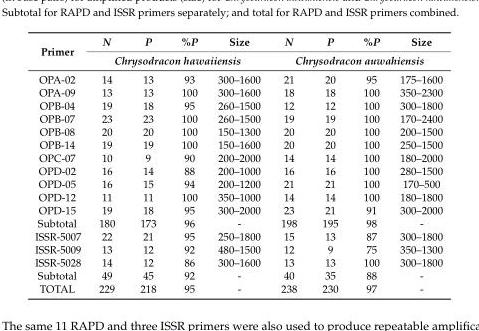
<table><thead><tr><td rowspan="2">Primer</td><td>N</td><td>P</td><td>%P</td><td>Size</td><td>N</td><td>P</td><td>%P</td><td>Size</td></tr><tr><td colspan="4">Chrysodracon hawaiiensis</td><td colspan="4">Chrysodracon auwahiensis</td></tr></thead><tbody><tr><td>OPA-02</td><td>14</td><td>13</td><td>93</td><td>300–1600</td><td>21</td><td>20</td><td>95</td><td>175–1600</td></tr><tr><td>OPA-09</td><td>13</td><td>13</td><td>100</td><td>300–1600</td><td>18</td><td>18</td><td>100</td><td>350–2300</td></tr><tr><td>OPB-04</td><td>19</td><td>18</td><td>95</td><td>260–1500</td><td>12</td><td>12</td><td>100</td><td>300–1800</td></tr><tr><td>OPB-07</td><td>23</td><td>23</td><td>100</td><td>260–1500</td><td>19</td><td>19</td><td>100</td><td>170–2400</td></tr><tr><td>OPB-08</td><td>20</td><td>20</td><td>100</td><td>150–1300</td><td>20</td><td>20</td><td>100</td><td>200–1500</td></tr><tr><td>OPB-14</td><td>19</td><td>19</td><td>100</td><td>150–1600</td><td>20</td><td>20</td><td>100</td><td>250–1500</td></tr><tr><td>OPC-07</td><td>10</td><td>9</td><td>90</td><td>200–2000</td><td>14</td><td>14</td><td>100</td><td>180–2000</td></tr><tr><td>OPD-02</td><td>16</td><td>14</td><td>88</td><td>200–1000</td><td>16</td><td>16</td><td>100</td><td>280–1500</td></tr><tr><td>OPD-05</td><td>16</td><td>15</td><td>94</td><td>200–1200</td><td>21</td><td>21</td><td>100</td><td>170–500</td></tr><tr><td>OPD-12</td><td>11</td><td>11</td><td>100</td><td>350–1000</td><td>14</td><td>14</td><td>100</td><td>180–1800</td></tr><tr><td>OPD-15</td><td>19</td><td>18</td><td>95</td><td>300–2000</td><td>23</td><td>21</td><td>91</td><td>300–2000</td></tr><tr><td>Subtotal</td><td>180</td><td>173</td><td>96</td><td>-</td><td>198</td><td>195</td><td>98</td><td>-</td></tr><tr><td>ISSR-5007</td><td>22</td><td>21</td><td>95</td><td>250–1800</td><td>15</td><td>13</td><td>87</td><td>300–1800</td></tr><tr><td>ISSR-5009</td><td>13</td><td>12</td><td>92</td><td>480–1500</td><td>12</td><td>9</td><td>75</td><td>350–1300</td></tr><tr><td>ISSR-5028</td><td>14</td><td>12</td><td>86</td><td>300–1600</td><td>13</td><td>13</td><td>100</td><td>300–1800</td></tr><tr><td>Subtotal</td><td>49</td><td>45</td><td>92</td><td>-</td><td>40</td><td>35</td><td>88</td><td>-</td></tr><tr><td>TOTAL</td><td>229</td><td>218</td><td>95</td><td>-</td><td>238</td><td>230</td><td>97</td><td>-</td></tr></tbody></table>